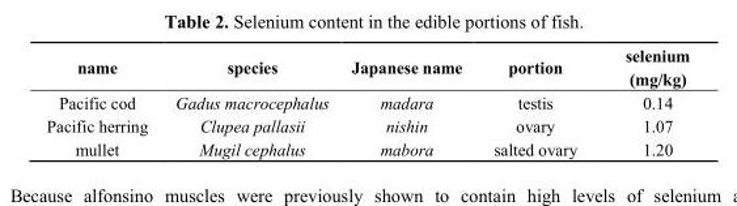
<table><thead><tr><td>name</td><td>species</td><td>Japanese name</td><td>portion</td><td>selenium (mg/kg)</td></tr></thead><tbody><tr><td>Pacific cod</td><td>Gadus macrocephalus</td><td>madara</td><td>testis</td><td>0.14</td></tr><tr><td>Pacific herring</td><td>Clupea pallasii</td><td>nishin</td><td>ovary</td><td>1.07</td></tr><tr><td>mullet</td><td>Mugil cephalus</td><td>mabora</td><td>salted ovary</td><td>1.20</td></tr></tbody></table>